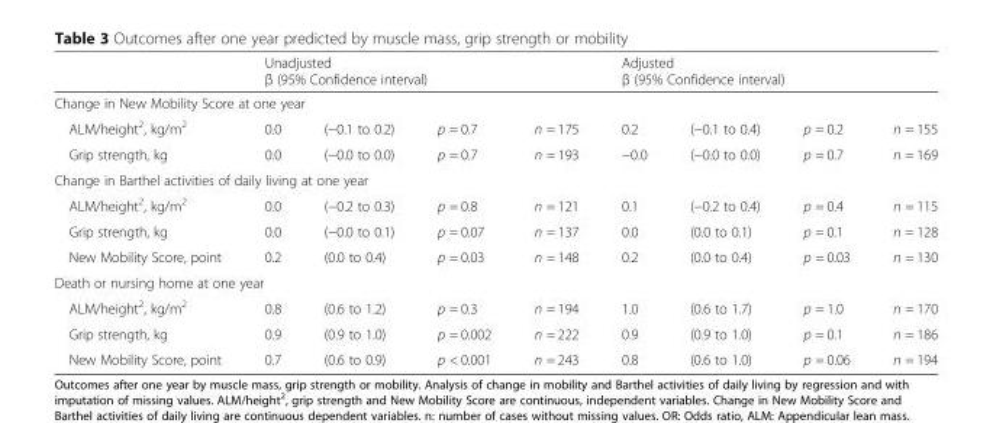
<table><thead><tr><td></td><td colspan="4">Unadjusted β (95% Confidence interval)</td><td colspan="4">Adjusted β (95% Confidence interval)</td></tr><tr><td colspan="9">Change in New Mobility Score at one year</td></tr><tr><td>ALM/height<sup>2</sup>, kg/m<sup>2</sup></td><td>0.0</td><td>(−0.1 to 0.2)</td><td>p = 0.7</td><td>n = 175</td><td>0.2</td><td>(−0.1 to 0.4)</td><td>p = 0.2</td><td>n = 155</td></tr></thead><tbody><tr><td>Grip strength, kg</td><td>0.0</td><td>(−0.0 to 0.0)</td><td>p = 0.7</td><td>n = 193</td><td>−0.0</td><td>(−0.0 to 0.0)</td><td>p = 0.7</td><td>n = 169</td></tr><tr><td colspan="9">Change in Barthel activities of daily living at one year</td></tr><tr><td>ALM/height<sup>2</sup>, kg/m<sup>2</sup></td><td>0.0</td><td>(−0.2 to 0.3)</td><td>p = 0.8</td><td>n = 121</td><td>0.1</td><td>(−0.2 to 0.4)</td><td>p = 0.4</td><td>n = 115</td></tr><tr><td>Grip strength, kg</td><td>0.0</td><td>(−0.0 to 0.1)</td><td>p = 0.07</td><td>n = 137</td><td>0.0</td><td>(0.0 to 0.1)</td><td>p = 0.1</td><td>n = 128</td></tr><tr><td>New Mobility Score, point</td><td>0.2</td><td>(0.0 to 0.4)</td><td>p = 0.03</td><td>n = 148</td><td>0.2</td><td>(0.0 to 0.4)</td><td>p = 0.03</td><td>n = 130</td></tr><tr><td colspan="9">Death or nursing home at one year</td></tr><tr><td>ALM/height<sup>2</sup>, kg/m<sup>2</sup></td><td>0.8</td><td>(0.6 to 1.2)</td><td>p = 0.3</td><td>n = 194</td><td>1.0</td><td>(0.6 to 1.7)</td><td>p = 1.0</td><td>n = 170</td></tr><tr><td>Grip strength, kg</td><td>0.9</td><td>(0.9 to 1.0)</td><td>p = 0.002</td><td>n = 222</td><td>0.9</td><td>(0.9 to 1.0)</td><td>p = 0.1</td><td>n = 186</td></tr><tr><td>New Mobility Score, point</td><td>0.7</td><td>(0.6 to 0.9)</td><td>p &lt; 0.001</td><td>n = 243</td><td>0.8</td><td>(0.6 to 1.0)</td><td>p = 0.06</td><td>n = 194</td></tr></tbody></table>